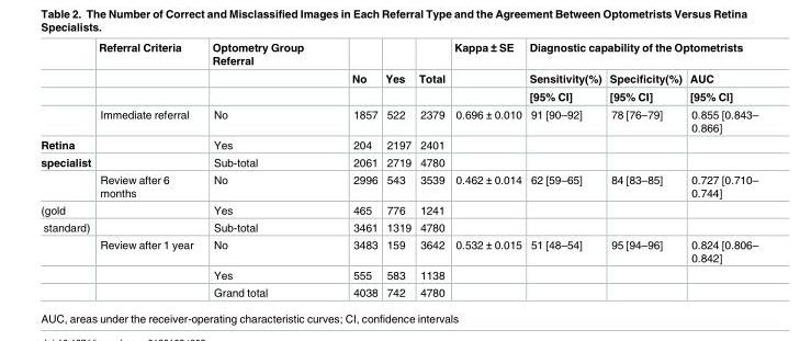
<table><thead><tr><td rowspan="3"></td><td rowspan="3">Referral Criteria</td><td rowspan="3">Optometry Group Referral</td><td rowspan="3">No</td><td rowspan="3">Yes</td><td rowspan="3">Total</td><td rowspan="3">Kappa ± SE</td><td colspan="3">Diagnostic capability of the Optometrists</td></tr><tr><td rowspan="2">Sensitivity(%) [95% CI]</td><td rowspan="2">Specificity(%) [95% CI]</td><td rowspan="2">AUC [95% CI]</td></tr><tr></tr></thead><tbody><tr><td></td><td>Immediate referral</td><td>No</td><td>1857</td><td>522</td><td>2379</td><td>0.696 ± 0.010</td><td>91 [90–92]</td><td>78 [76–79]</td><td>0.855 [0.843– 0.866]</td></tr><tr><td>Retina</td><td></td><td>Yes</td><td>204</td><td>2197</td><td>2401</td><td></td><td></td><td></td><td></td></tr><tr><td rowspan="2">specialist</td><td></td><td>Sub-total</td><td>2061</td><td>2719</td><td>4780</td><td></td><td></td><td></td><td></td></tr><tr><td>Review after 6 months</td><td>No</td><td>2996</td><td>543</td><td>3539</td><td>0.462 ± 0.014</td><td>62 [59–65]</td><td>84 [83–85]</td><td>0.727 [0.710– 0.744]</td></tr><tr><td>(gold</td><td></td><td>Yes</td><td>465</td><td>776</td><td>1241</td><td></td><td></td><td></td><td></td></tr><tr><td rowspan="4">standard)</td><td></td><td>Sub-total</td><td>3461</td><td>1319</td><td>4780</td><td></td><td></td><td></td><td></td></tr><tr><td>Review after 1 year</td><td>No</td><td>3483</td><td>159</td><td>3642</td><td>0.532 ± 0.015</td><td>51 [48–54]</td><td>95 [94–96]</td><td>0.824 [0.806– 0.842]</td></tr><tr><td></td><td>Yes</td><td>555</td><td>583</td><td>1138</td><td></td><td></td><td></td><td></td></tr><tr><td></td><td>Grand total</td><td>4038</td><td>742</td><td>4780</td><td></td><td></td><td></td><td></td></tr></tbody></table>